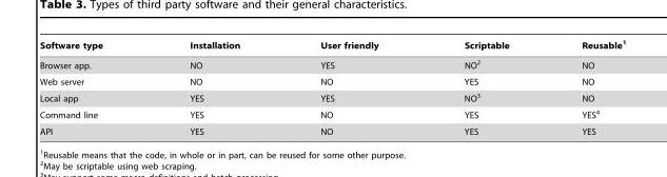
<table><thead><tr><td>Software type</td><td>Installation</td><td>User friendly</td><td>Scriptable</td><td>Reusable<sup>1</sup></td></tr></thead><tbody><tr><td>Browser app.</td><td>NO</td><td>YES</td><td>NO<sup>2</sup></td><td>NO</td></tr><tr><td>Web server</td><td>NO</td><td>NO</td><td>YES</td><td>NO</td></tr><tr><td>Local app</td><td>YES</td><td>YES</td><td>NO<sup>3</sup></td><td>NO</td></tr><tr><td>Command line</td><td>YES</td><td>NO</td><td>YES</td><td>YES<sup>4</sup></td></tr><tr><td>API</td><td>YES</td><td>NO</td><td>YES</td><td>YES</td></tr></tbody></table>